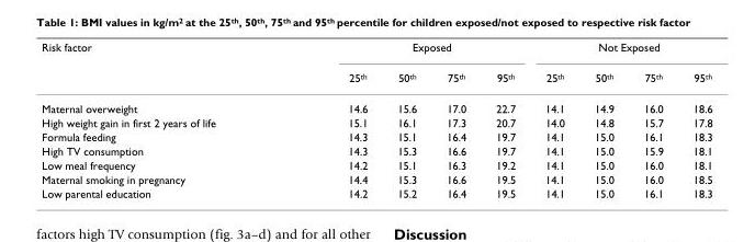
<table><thead><tr><td rowspan="2">Risk factor</td><td colspan="4">Exposed</td><td colspan="4">Not Exposed</td></tr><tr><td>25<sup>th</sup></td><td>50<sup>th</sup></td><td>75<sup>th</sup></td><td>95<sup>th</sup></td><td>25<sup>th</sup></td><td>50<sup>th</sup></td><td>75<sup>th</sup></td><td>95<sup>th</sup></td></tr></thead><tbody><tr><td>Maternal overweight</td><td>14.6</td><td>15.6</td><td>17.0</td><td>22.7</td><td>14.1</td><td>14.9</td><td>16.0</td><td>18.6</td></tr><tr><td>High weight gain in first 2 years of life</td><td>15.1</td><td>16.1</td><td>17.3</td><td>20.7</td><td>14.0</td><td>14.8</td><td>15.7</td><td>17.8</td></tr><tr><td>Formula feeding</td><td>14.3</td><td>15.1</td><td>16.4</td><td>19.7</td><td>14.1</td><td>15.0</td><td>16.1</td><td>18.3</td></tr><tr><td>High TV consumption</td><td>14.3</td><td>15.3</td><td>16.6</td><td>19.7</td><td>14.1</td><td>15.0</td><td>15.9</td><td>18.1</td></tr><tr><td>Low meal frequency</td><td>14.2</td><td>15.1</td><td>16.3</td><td>19.2</td><td>14.1</td><td>15.0</td><td>16.0</td><td>18.1</td></tr><tr><td>Maternal smoking in pregnancy</td><td>14.4</td><td>15.3</td><td>16.6</td><td>19.5</td><td>14.1</td><td>15.0</td><td>16.0</td><td>18.5</td></tr><tr><td>Low parental education</td><td>14.2</td><td>15.2</td><td>16.4</td><td>19.5</td><td>14.1</td><td>15.0</td><td>16.1</td><td>18.3</td></tr></tbody></table>